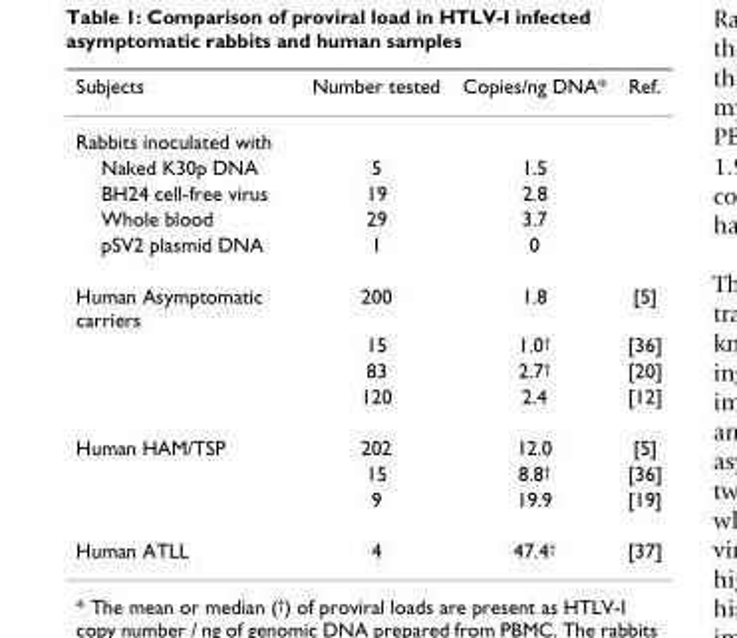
<table><thead><tr><td>Subjects</td><td>Number tested</td><td>Copies/ng DNA*</td><td>Ref.</td></tr></thead><tbody><tr><td colspan="4">Rabbits inoculated with</td></tr><tr><td>Naked K30p DNA</td><td>5</td><td>1.5</td><td></td></tr><tr><td>BH24 cell-free virus</td><td>19</td><td>2.8</td><td></td></tr><tr><td>Whole blood</td><td>29</td><td>3.7</td><td></td></tr><tr><td>pSV2 plasmid DNA</td><td>1</td><td>0</td><td></td></tr><tr><td rowspan="4">Human Asymptomatic carriers</td><td>200</td><td>1.8</td><td>[5]</td></tr><tr><td>15</td><td>1.0<sup>†</sup></td><td>[36]</td></tr><tr><td>83</td><td>2.7<sup>†</sup></td><td>[20]</td></tr><tr><td>120</td><td>2.4</td><td>[12]</td></tr><tr><td rowspan="3">Human HAM/TSP</td><td>202</td><td>12.0</td><td>[5]</td></tr><tr><td>15</td><td>8.8<sup>†</sup></td><td>[36]</td></tr><tr><td>9</td><td>19.9</td><td>[19]</td></tr><tr><td>Human ATLL</td><td>4</td><td>47.4<sup>†</sup></td><td>[37]</td></tr></tbody></table>